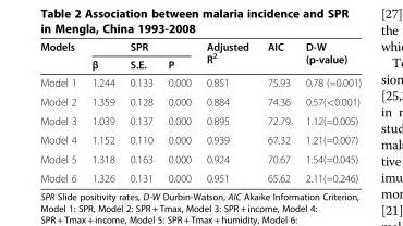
<table><thead><tr><td rowspan="2">Models</td><td rowspan="2">β</td><td rowspan="2">SPR S.E.</td><td rowspan="2">P</td><td rowspan="2">Adjusted R<sup>2</sup></td><td rowspan="2">AIC</td><td rowspan="2">D-W (p-value)</td></tr><tr></tr></thead><tbody><tr><td>Model 1</td><td>1.244</td><td>0.133</td><td>0.000</td><td>0.851</td><td>75.93</td><td>0.78 (=0.001)</td></tr><tr><td>Model 2</td><td>1.359</td><td>0.128</td><td>0.000</td><td>0.884</td><td>74.36</td><td>0.57(&lt;0.001)</td></tr><tr><td>Model 3</td><td>1.039</td><td>0.137</td><td>0.000</td><td>0.895</td><td>72.79</td><td>1.12(=0.005)</td></tr><tr><td>Model 4</td><td>1.152</td><td>0.110</td><td>0.000</td><td>0.939</td><td>67.32</td><td>1.21(=0.007)</td></tr><tr><td>Model 5</td><td>1.318</td><td>0.163</td><td>0.000</td><td>0.924</td><td>70.67</td><td>1.54(=0.045)</td></tr><tr><td>Model 6</td><td>1.326</td><td>0.131</td><td>0.000</td><td>0.951</td><td>65.62</td><td>2.11(=0.246)</td></tr></tbody></table>